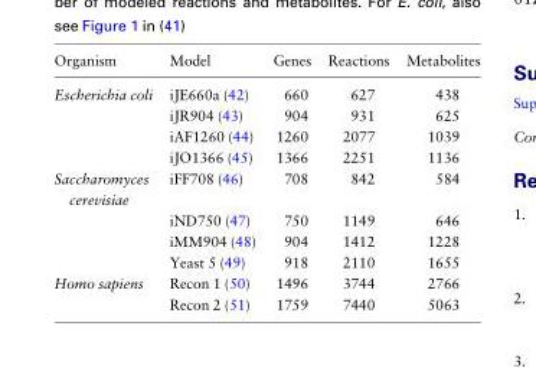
<table><thead><tr><td>Organism</td><td>Model</td><td>Genes</td><td>Reactions</td><td>Metabolites</td></tr></thead><tbody><tr><td rowspan="4">Escherichia coli</td><td>iJE660a (42)</td><td>660</td><td>627</td><td>438</td></tr><tr><td>iJR904 (43)</td><td>904</td><td>931</td><td>625</td></tr><tr><td>iAF1260 (44)</td><td>1260</td><td>2077</td><td>1039</td></tr><tr><td>iJO1366 (45)</td><td>1366</td><td>2251</td><td>1136</td></tr><tr><td rowspan="4">Saccharomyces cerevisiae</td><td>iFF708 (46)</td><td>708</td><td>842</td><td>584</td></tr><tr><td>iND750 (47)</td><td>750</td><td>1149</td><td>646</td></tr><tr><td>iMM904 (48)</td><td>904</td><td>1412</td><td>1228</td></tr><tr><td>Yeast 5 (49)</td><td>918</td><td>2110</td><td>1655</td></tr><tr><td rowspan="2">Homo sapiens</td><td>Recon 1 (50)</td><td>1496</td><td>3744</td><td>2766</td></tr><tr><td>Recon 2 (51)</td><td>1759</td><td>7440</td><td>5063</td></tr></tbody></table>